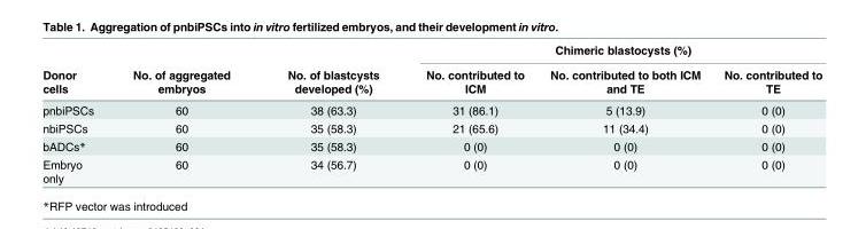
<table><thead><tr><td rowspan="2">Donor cells</td><td rowspan="2">No. of aggregated embryos</td><td rowspan="2">No. of blastcysts developed (%)</td><td colspan="3">Chimeric blastocysts (%)</td></tr><tr><td>No. contributed to ICM</td><td>No. contributed to both ICM and TE</td><td>No. contributed to TE</td></tr></thead><tbody><tr><td>pnbiPSCs</td><td>60</td><td>38 (63.3)</td><td>31 (86.1)</td><td>5 (13.9)</td><td>0 (0)</td></tr><tr><td>nbiPSCs</td><td>60</td><td>35 (58.3)</td><td>21 (65.6)</td><td>11 (34.4)</td><td>0 (0)</td></tr><tr><td>bADCs*</td><td>60</td><td>35 (58.3)</td><td>0 (0)</td><td>0 (0)</td><td>0 (0)</td></tr><tr><td>Embryo only</td><td>60</td><td>34 (56.7)</td><td>0 (0)</td><td>0 (0)</td><td>0 (0)</td></tr></tbody></table>